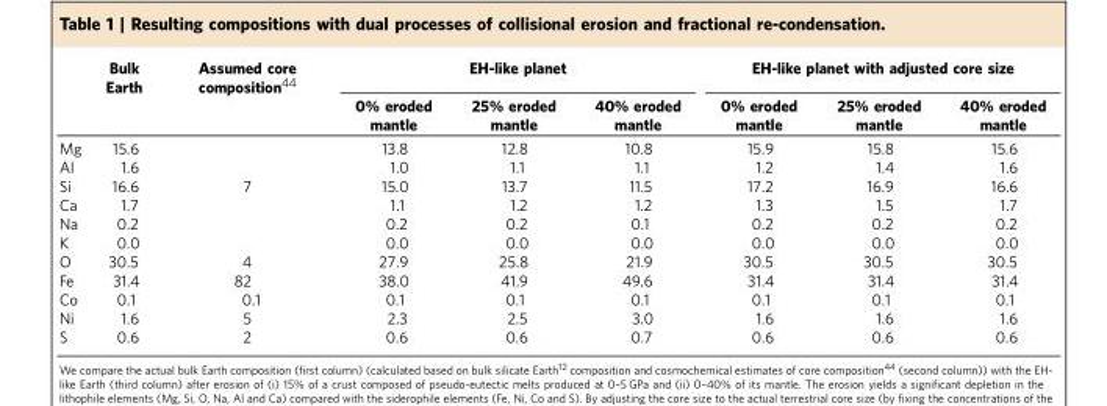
<table><thead><tr><td rowspan="2"></td><td rowspan="2">Bulk Earth</td><td rowspan="2">Assumed core composition<sup>44</sup></td><td colspan="3">EH-like planet</td><td colspan="3">EH-like planet with adjusted core size</td></tr><tr><td>0% eroded mantle</td><td>25% eroded mantle</td><td>40% eroded mantle</td><td>0% eroded mantle</td><td>25% eroded mantle</td><td>40% eroded mantle</td></tr></thead><tbody><tr><td>Mg</td><td>15.6</td><td></td><td>13.8</td><td>12.8</td><td>10.8</td><td>15.9</td><td>15.8</td><td>15.6</td></tr><tr><td>Al</td><td>1.6</td><td></td><td>1.0</td><td>1.1</td><td>1.1</td><td>1.2</td><td>1.4</td><td>1.6</td></tr><tr><td>Si</td><td>16.6</td><td>7</td><td>15.0</td><td>13.7</td><td>11.5</td><td>17.2</td><td>16.9</td><td>16.6</td></tr><tr><td>Ca</td><td>1.7</td><td></td><td>1.1</td><td>1.2</td><td>1.2</td><td>1.3</td><td>1.5</td><td>1.7</td></tr><tr><td>Na</td><td>0.2</td><td></td><td>0.2</td><td>0.2</td><td>0.1</td><td>0.2</td><td>0.2</td><td>0.2</td></tr><tr><td>K</td><td>0.0</td><td></td><td>0.0</td><td>0.0</td><td>0.0</td><td>0.0</td><td>0.0</td><td>0.0</td></tr><tr><td>O</td><td>30.5</td><td>4</td><td>27.9</td><td>25.8</td><td>21.9</td><td>30.5</td><td>30.5</td><td>30.5</td></tr><tr><td>Fe</td><td>31.4</td><td>82</td><td>38.0</td><td>41.9</td><td>49.6</td><td>31.4</td><td>31.4</td><td>31.4</td></tr><tr><td>Co</td><td>0.1</td><td>0.1</td><td>0.1</td><td>0.1</td><td>0.1</td><td>0.1</td><td>0.1</td><td>0.1</td></tr><tr><td>Ni</td><td>1.6</td><td>5</td><td>2.3</td><td>2.5</td><td>3.0</td><td>1.6</td><td>1.6</td><td>1.6</td></tr><tr><td>S</td><td>0.6</td><td>2</td><td>0.6</td><td>0.6</td><td>0.7</td><td>0.6</td><td>0.6</td><td>0.6</td></tr></tbody></table>